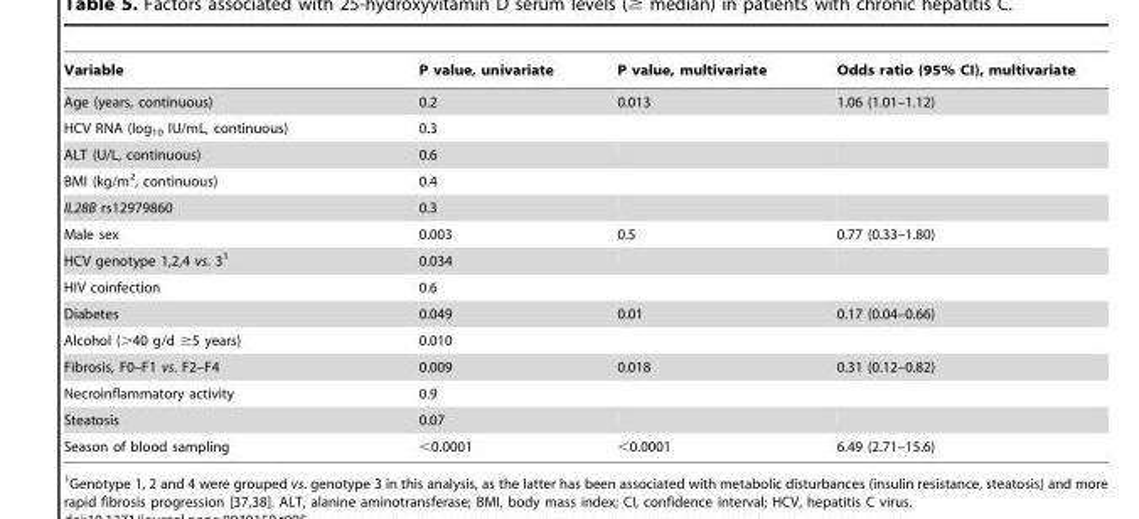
<table><thead><tr><td>Variable</td><td>P value, univariate</td><td>P value, multivariate</td><td>Odds ratio (95% CI), multivariate</td></tr></thead><tbody><tr><td>Age (years, continuous)</td><td>0.2</td><td>0.013</td><td>1.06 (1.01–1.12)</td></tr><tr><td>HCV RNA (log<sub>10</sub> IU/mL, continuous)</td><td>0.3</td><td></td><td></td></tr><tr><td>ALT (U/L, continuous)</td><td>0.6</td><td></td><td></td></tr><tr><td>BMI (kg/m<sup>2</sup>, continuous)</td><td>0.4</td><td></td><td></td></tr><tr><td>IL28B rs12979860</td><td>0.3</td><td></td><td></td></tr><tr><td>Male sex</td><td>0.003</td><td>0.5</td><td>0.77 (0.33–1.80)</td></tr><tr><td>HCV genotype 1,2,4 vs. 3<sup>1</sup></td><td>0.034</td><td></td><td></td></tr><tr><td>HIV coinfection</td><td>0.6</td><td></td><td></td></tr><tr><td>Diabetes</td><td>0.049</td><td>0.01</td><td>0.17 (0.04–0.66)</td></tr><tr><td>Alcohol (&gt;40 g/d ≥5 years)</td><td>0.010</td><td></td><td></td></tr><tr><td>Fibrosis, F0–F1 vs. F2–F4</td><td>0.009</td><td>0.018</td><td>0.31 (0.12–0.82)</td></tr><tr><td>Necroinflammatory activity</td><td>0.9</td><td></td><td></td></tr><tr><td>Steatosis</td><td>0.07</td><td></td><td></td></tr><tr><td>Season of blood sampling</td><td>&lt;0.0001</td><td>&lt;0.0001</td><td>6.49 (2.71–15.6)</td></tr></tbody></table>